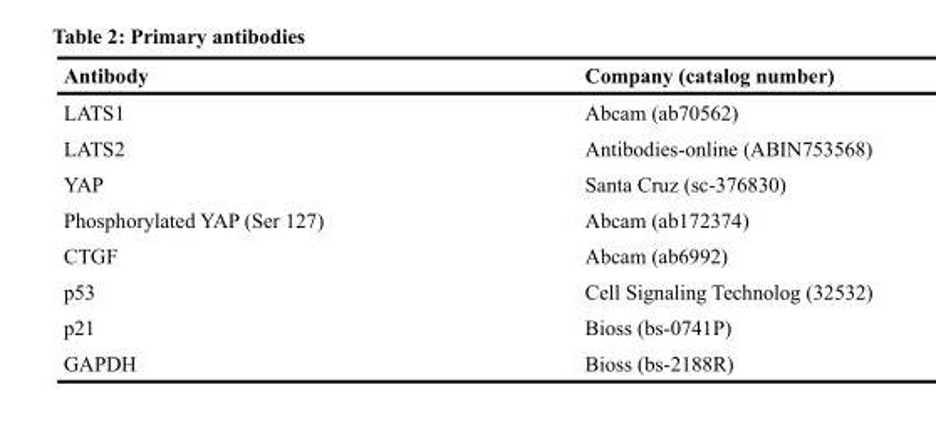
<table><thead><tr><td>Antibody</td><td>Company (catalog number)</td></tr></thead><tbody><tr><td>LATS1</td><td>Abcam (ab70562)</td></tr><tr><td>LATS2</td><td>Antibodies-online (ABIN753568)</td></tr><tr><td>YAP</td><td>Santa Cruz (sc-376830)</td></tr><tr><td>Phosphorylated YAP (Ser 127)</td><td>Abcam (ab172374)</td></tr><tr><td>CTGF</td><td>Abcam (ab6992)</td></tr><tr><td>p53</td><td>Cell Signaling Technolog (32532)</td></tr><tr><td>p21</td><td>Bioss (bs-0741P)</td></tr><tr><td>GAPDH</td><td>Bioss (bs-2188R)</td></tr></tbody></table>